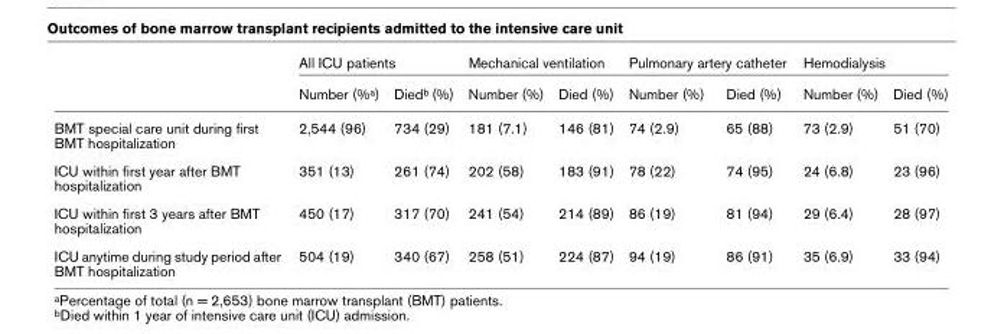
<table><thead><tr><td rowspan="2"></td><td colspan="2">All ICU patients</td><td colspan="2">Mechanical ventilation</td><td colspan="2">Pulmonary artery catheter</td><td colspan="2">Hemodialysis</td></tr><tr><td>Number (%<sup>a</sup>)</td><td>Died<sup>b</sup> (%)</td><td>Number (%)</td><td>Died (%)</td><td>Number (%)</td><td>Died (%)</td><td>Number (%)</td><td>Died (%)</td></tr></thead><tbody><tr><td>BMT special care unit during first BMT hospitalization</td><td>2,544 (96)</td><td>734 (29)</td><td>181 (7.1)</td><td>146 (81)</td><td>74 (2.9)</td><td>65 (88)</td><td>73 (2.9)</td><td>51 (70)</td></tr><tr><td>ICU within first year after BMT hospitalization</td><td>351 (13)</td><td>261 (74)</td><td>202 (58)</td><td>183 (91)</td><td>78 (22)</td><td>74 (95)</td><td>24 (6.8)</td><td>23 (96)</td></tr><tr><td>ICU within first 3 years after BMT hospitalization</td><td>450 (17)</td><td>317 (70)</td><td>241 (54)</td><td>214 (89)</td><td>86 (19)</td><td>81 (94)</td><td>29 (6.4)</td><td>28 (97)</td></tr><tr><td>ICU anytime during study period after BMT hospitalization</td><td>504 (19)</td><td>340 (67)</td><td>258 (51)</td><td>224 (87)</td><td>94 (19)</td><td>86 (91)</td><td>35 (6.9)</td><td>33 (94)</td></tr></tbody></table>